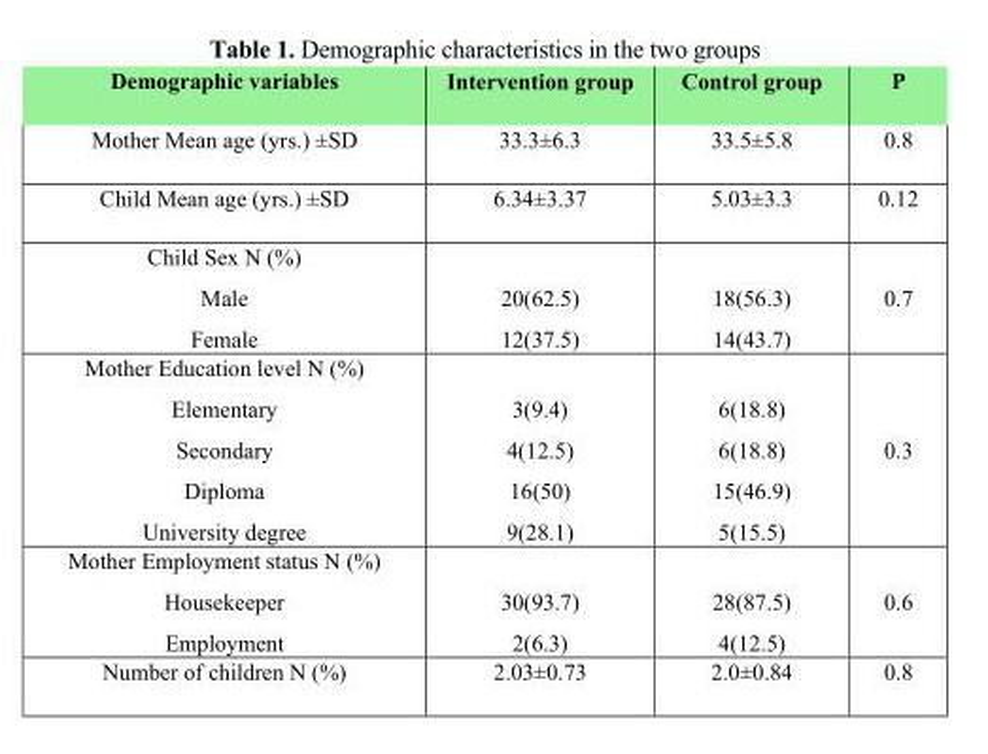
<table><thead><tr><td>Demographic variables</td><td>Intervention group</td><td>Control group</td><td>P</td></tr></thead><tbody><tr><td>Mother Mean age (yrs.) ±SD</td><td>33.3±6.3</td><td>33.5±5.8</td><td>0.8</td></tr><tr><td>Child Mean age (yrs.) ±SD</td><td>6.34±3.37</td><td>5.03±3.3</td><td>0.12</td></tr><tr><td colspan="4">Child Sex N (%)</td></tr><tr><td>Male Female</td><td>20(62.5) 12(37.5)</td><td>18(56.3) 14(43.7)</td><td>0.7</td></tr><tr><td colspan="4">Mother Education level N (%)</td></tr><tr><td>Elementary Secondary Diploma University degree</td><td>3(9.4) 4(12.5) 16(50) 9(28.1)</td><td>6(18.8) 6(18.8) 15(46.9) 5(15.5)</td><td>0.3</td></tr><tr><td colspan="4">Mother Employment status N (%)</td></tr><tr><td>Housekeeper Employment</td><td>30(93.7) 2(6.3)</td><td>28(87.5) 4(12.5)</td><td>0.6</td></tr><tr><td>Number of children N (%)</td><td>2.03±0.73</td><td>2.0±0.84</td><td>0.8</td></tr></tbody></table>